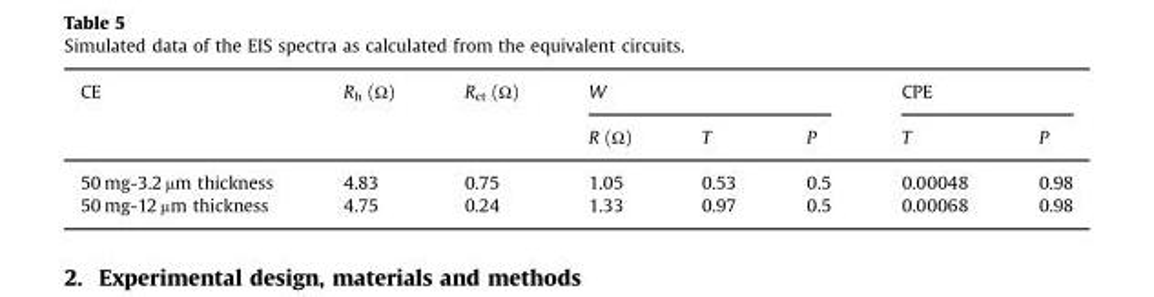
<table><thead><tr><td rowspan="2">CE</td><td rowspan="2">R<sub>h</sub> (Ω)</td><td rowspan="2">R<sub>ct</sub> (Ω)</td><td colspan="3">W</td><td colspan="2">CPE</td></tr><tr><td>R (Ω)</td><td>T</td><td>P</td><td>T</td><td>P</td></tr></thead><tbody><tr><td>50 mg-3.2 µm thickness</td><td>4.83</td><td>0.75</td><td>1.05</td><td>0.53</td><td>0.5</td><td>0.00048</td><td>0.98</td></tr><tr><td>50 mg-12 µm thickness</td><td>4.75</td><td>0.24</td><td>1.33</td><td>0.97</td><td>0.5</td><td>0.00068</td><td>0.98</td></tr></tbody></table>